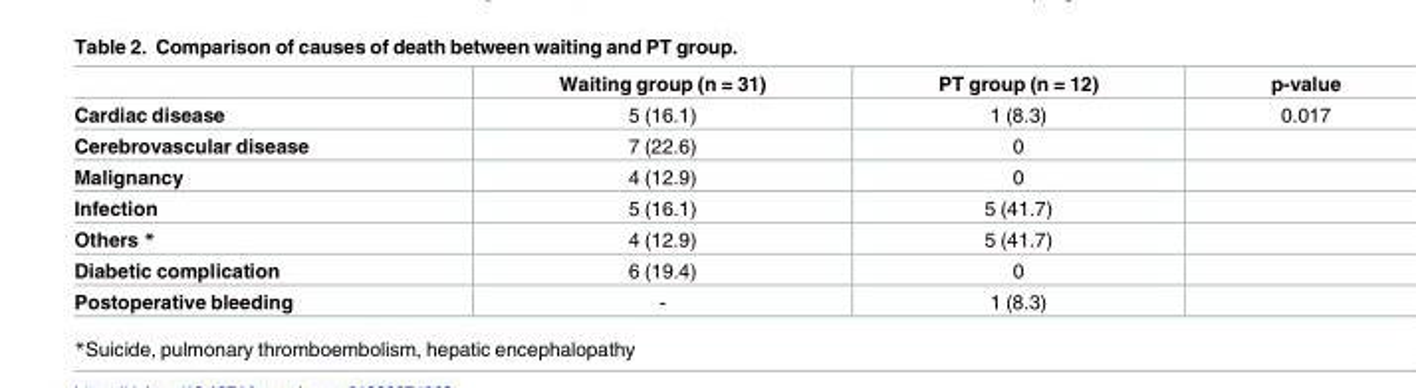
<table><thead><tr><td></td><td>Waiting group (n = 31)</td><td>PT group (n = 12)</td><td>p-value</td></tr></thead><tbody><tr><td>Cardiac disease</td><td>5 (16.1)</td><td>1 (8.3)</td><td>0.017</td></tr><tr><td>Cerebrovascular disease</td><td>7 (22.6)</td><td>0</td><td></td></tr><tr><td>Malignancy</td><td>4 (12.9)</td><td>0</td><td></td></tr><tr><td>Infection</td><td>5 (16.1)</td><td>5 (41.7)</td><td></td></tr><tr><td>Others *</td><td>4 (12.9)</td><td>5 (41.7)</td><td></td></tr><tr><td>Diabetic complication</td><td>6 (19.4)</td><td>0</td><td></td></tr><tr><td>Postoperative bleeding</td><td>-</td><td>1 (8.3)</td><td></td></tr></tbody></table>